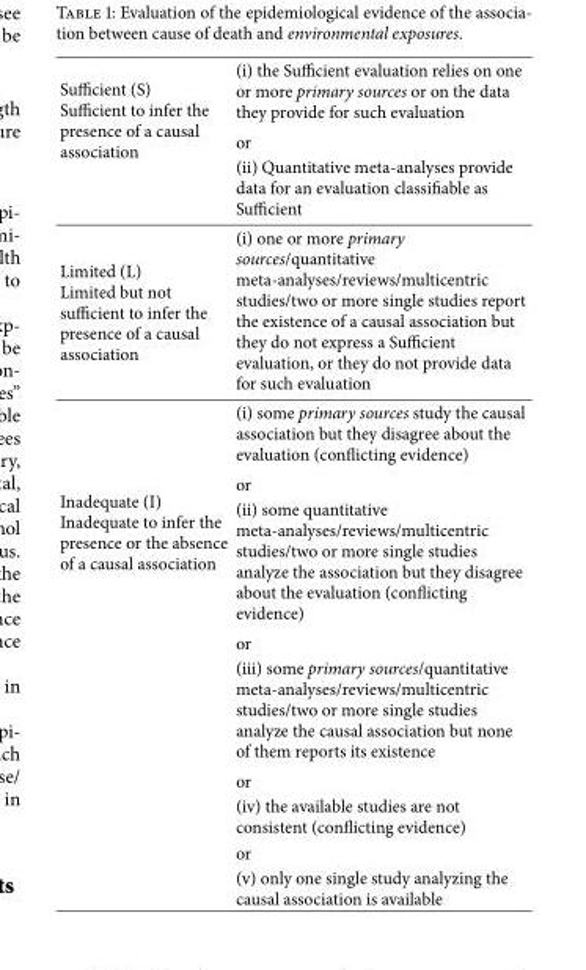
<table><tbody><tr><td rowspan="3">Sufficient (S) Sufficient to infer the presence of a causal association</td><td>(i) the Sufficient evaluation relies on one or more primary sources or on the data they provide for such evaluation</td></tr><tr><td>or</td></tr><tr><td>(ii) Quantitative meta-analyses provide data for an evaluation classifiable as Sufficient</td></tr><tr><td>Limited (L) Limited but not sufficient to infer the presence of a causal association</td><td>(i) one or more primary sources/quantitative meta-analyses/reviews/multicentric studies/two or more single studies report the existence of a causal association but they do not express a Sufficient evaluation, or they do not provide data for such evaluation</td></tr><tr><td rowspan="9">Inadequate (I) Inadequate to infer the presence or the absence of a causal association</td><td>(i) some primary sources study the causal association but they disagree about the evaluation (conflicting evidence)</td></tr><tr><td>or</td></tr><tr><td>(ii) some quantitative meta-analyses/reviews/multicentric studies/two or more single studies analyze the association but they disagree about the evaluation (conflicting evidence)</td></tr><tr><td>or</td></tr><tr><td>(iii) some primary sources/quantitative meta-analyses/reviews/multicentric studies/two or more single studies analyze the causal association but none of them reports its existence</td></tr><tr><td>or</td></tr><tr><td>(iv) the available studies are not consistent (conflicting evidence)</td></tr><tr><td>or</td></tr><tr><td>(v) only one single study analyzing the causal association is available</td></tr></tbody></table>